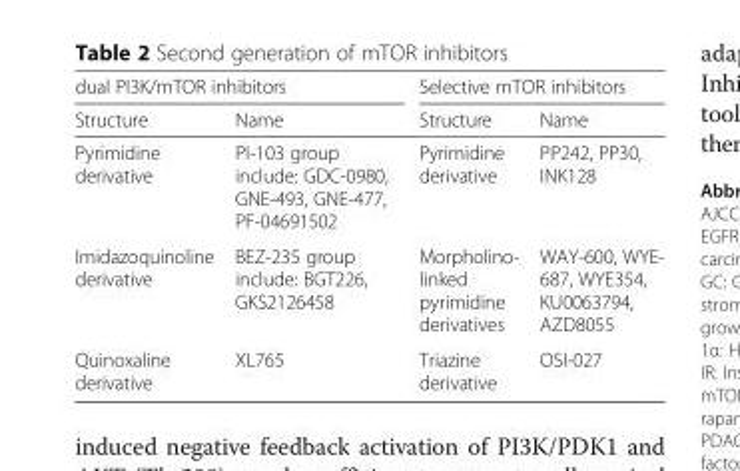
<table><thead><tr><td colspan="2">dual PI3K/mTOR inhibitors</td><td colspan="2">Selective mTOR inhibitors</td></tr><tr><td>Structure</td><td>Name</td><td>Structure</td><td>Name</td></tr></thead><tbody><tr><td>Pyrimidine derivative</td><td>PI-103 group include: GDC-0980, GNE-493, GNE-477, PF-04691502</td><td>Pyrimidine derivative</td><td>PP242, PP30, INK128</td></tr><tr><td>Imidazoquinoline derivative</td><td>BEZ-235 group include: BGT226, GKS2126458</td><td>Morpholino- linked pyrimidine derivatives</td><td>WAY-600, WYE- 687, WYE354, KU0063794, AZD8055</td></tr><tr><td>Quinoxaline derivative</td><td>XL765</td><td>Triazine derivative</td><td>OSI-027</td></tr></tbody></table>